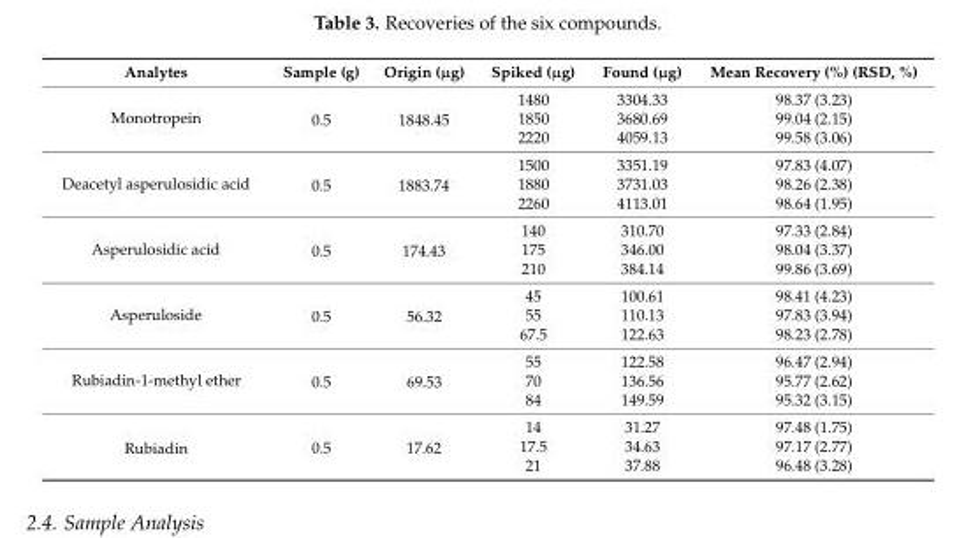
<table><thead><tr><td>Analytes</td><td>Sample (g)</td><td>Origin (µg)</td><td>Spiked (µg)</td><td>Found (µg)</td><td>Mean Recovery (%) (RSD, %)</td></tr></thead><tbody><tr><td rowspan="3">Monotropein</td><td rowspan="3">0.5</td><td rowspan="3">1848.45</td><td>1480</td><td>3304.33</td><td>98.37 (3.23)</td></tr><tr><td>1850</td><td>3680.69</td><td>99.04 (2.15)</td></tr><tr><td>2220</td><td>4059.13</td><td>99.58 (3.06)</td></tr><tr><td rowspan="3">Deacetyl asperulosidic acid</td><td rowspan="3">0.5</td><td rowspan="3">1883.74</td><td>1500</td><td>3351.19</td><td>97.83 (4.07)</td></tr><tr><td>1880</td><td>3731.03</td><td>98.26 (2.38)</td></tr><tr><td>2260</td><td>4113.01</td><td>98.64 (1.95)</td></tr><tr><td rowspan="3">Asperulosidic acid</td><td rowspan="3">0.5</td><td rowspan="3">174.43</td><td>140</td><td>310.70</td><td>97.33 (2.84)</td></tr><tr><td>175</td><td>346.00</td><td>98.04 (3.37)</td></tr><tr><td>210</td><td>384.14</td><td>99.86 (3.69)</td></tr><tr><td rowspan="3">Asperuloside</td><td rowspan="3">0.5</td><td rowspan="3">56.32</td><td>45</td><td>100.61</td><td>98.41 (4.23)</td></tr><tr><td>55</td><td>110.13</td><td>97.83 (3.94)</td></tr><tr><td>67.5</td><td>122.63</td><td>98.23 (2.78)</td></tr><tr><td rowspan="3">Rubiadin-1-methyl ether</td><td rowspan="3">0.5</td><td rowspan="3">69.53</td><td>55</td><td>122.58</td><td>96.47 (2.94)</td></tr><tr><td>70</td><td>136.56</td><td>95.77 (2.62)</td></tr><tr><td>84</td><td>149.59</td><td>95.32 (3.15)</td></tr><tr><td rowspan="3">Rubiadin</td><td rowspan="3">0.5</td><td rowspan="3">17.62</td><td>14</td><td>31.27</td><td>97.48 (1.75)</td></tr><tr><td>17.5</td><td>34.63</td><td>97.17 (2.77)</td></tr><tr><td>21</td><td>37.88</td><td>96.48 (3.28)</td></tr></tbody></table>